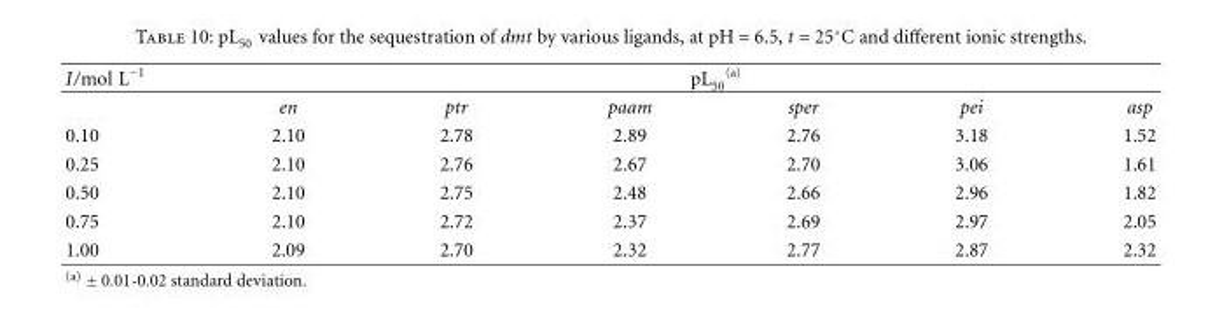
<table><thead><tr><td rowspan="2">I/mol L<sup>−1</sup></td><td colspan="6">pL<sub>50</sub> <sup>(a)</sup></td></tr><tr><td>en</td><td>ptr</td><td>paam</td><td>sper</td><td>pei</td><td>asp</td></tr></thead><tbody><tr><td>0.10</td><td>2.10</td><td>2.78</td><td>2.89</td><td>2.76</td><td>3.18</td><td>1.52</td></tr><tr><td>0.25</td><td>2.10</td><td>2.76</td><td>2.67</td><td>2.70</td><td>3.06</td><td>1.61</td></tr><tr><td>0.50</td><td>2.10</td><td>2.75</td><td>2.48</td><td>2.66</td><td>2.96</td><td>1.82</td></tr><tr><td>0.75</td><td>2.10</td><td>2.72</td><td>2.37</td><td>2.69</td><td>2.97</td><td>2.05</td></tr><tr><td>1.00</td><td>2.09</td><td>2.70</td><td>2.32</td><td>2.77</td><td>2.87</td><td>2.32</td></tr></tbody></table>